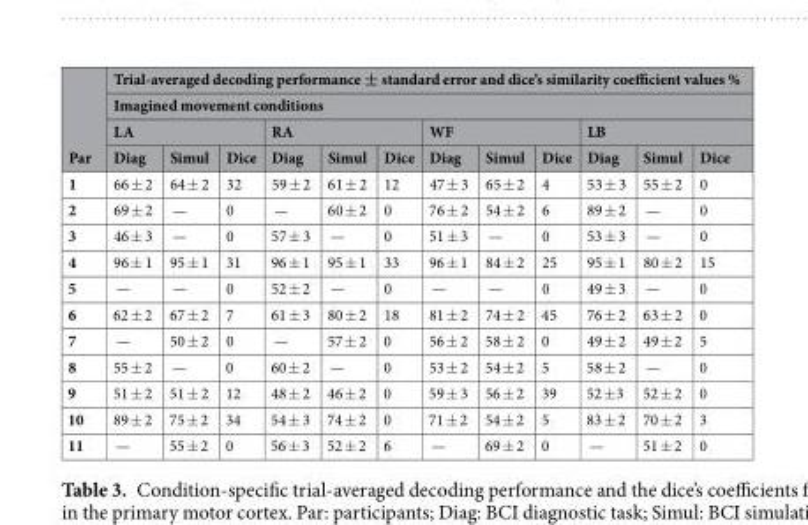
<table><thead><tr><td rowspan="4">Par</td><td rowspan="2" colspan="12">Trial-averaged decoding performance ± standard error and dice’s similarity coefficient values % Imagined movement conditions</td></tr><tr></tr><tr><td colspan="3">LA</td><td colspan="3">RA</td><td colspan="3">WF</td><td colspan="3">LB</td></tr><tr><td>Diag</td><td>Simul</td><td>Dice</td><td>Diag</td><td>Simul</td><td>Dice</td><td>Diag</td><td>Simul</td><td>Dice</td><td>Diag</td><td>Simul</td><td>Dice</td></tr></thead><tbody><tr><td>1</td><td>66 ± 2</td><td>64 ± 2</td><td>32</td><td>59 ± 2</td><td>61 ± 2</td><td>12</td><td>47 ± 3</td><td>65 ± 2</td><td>4</td><td>53 ± 3</td><td>55 ± 2</td><td>0</td></tr><tr><td>2</td><td>69 ± 2</td><td>—</td><td>0</td><td>—</td><td>60 ± 2</td><td>0</td><td>76 ± 2</td><td>54 ± 2</td><td>6</td><td>89 ± 2</td><td>—</td><td>0</td></tr><tr><td>3</td><td>46 ± 3</td><td>—</td><td>0</td><td>57 ± 3</td><td>—</td><td>0</td><td>51 ± 3</td><td>—</td><td>0</td><td>53 ± 3</td><td>—</td><td>0</td></tr><tr><td>4</td><td>96 ± 1</td><td>95 ± 1</td><td>31</td><td>96 ± 1</td><td>95 ± 1</td><td>33</td><td>96 ± 1</td><td>84 ± 2</td><td>25</td><td>95 ± 1</td><td>80 ± 2</td><td>15</td></tr><tr><td>5</td><td>—</td><td>—</td><td>0</td><td>52 ± 2</td><td>—</td><td>0</td><td>—</td><td>—</td><td>0</td><td>49 ± 3</td><td>—</td><td>0</td></tr><tr><td>6</td><td>62 ± 2</td><td>67 ± 2</td><td>7</td><td>61 ± 3</td><td>80 ± 2</td><td>18</td><td>81 ± 2</td><td>74 ± 2</td><td>45</td><td>76 ± 2</td><td>63 ± 2</td><td>0</td></tr><tr><td>7</td><td>—</td><td>50 ± 2</td><td>0</td><td>—</td><td>57 ± 2</td><td>0</td><td>56 ± 2</td><td>58 ± 2</td><td>0</td><td>49 ± 2</td><td>49 ± 2</td><td>5</td></tr><tr><td>8</td><td>55 ± 2</td><td>—</td><td>0</td><td>60 ± 2</td><td>—</td><td>0</td><td>53 ± 2</td><td>54 ± 2</td><td>5</td><td>58 ± 2</td><td>—</td><td>0</td></tr><tr><td>9</td><td>51 ± 2</td><td>51 ± 2</td><td>12</td><td>48 ± 2</td><td>46 ± 2</td><td>0</td><td>59 ± 3</td><td>56 ± 2</td><td>39</td><td>52 ±3</td><td>52 ± 2</td><td>0</td></tr><tr><td>10</td><td>89 ± 2</td><td>75 ± 2</td><td>34</td><td>54 ± 3</td><td>74 ± 2</td><td>0</td><td>71 ± 2</td><td>54 ± 2</td><td>5</td><td>83 ± 2</td><td>70 ± 2</td><td>3</td></tr><tr><td>11</td><td>—</td><td>55 ± 2</td><td>0</td><td>56 ± 3</td><td>52 ± 2</td><td>6</td><td>—</td><td>69 ± 2</td><td>0</td><td>—</td><td>51 ± 2</td><td>0</td></tr></tbody></table>